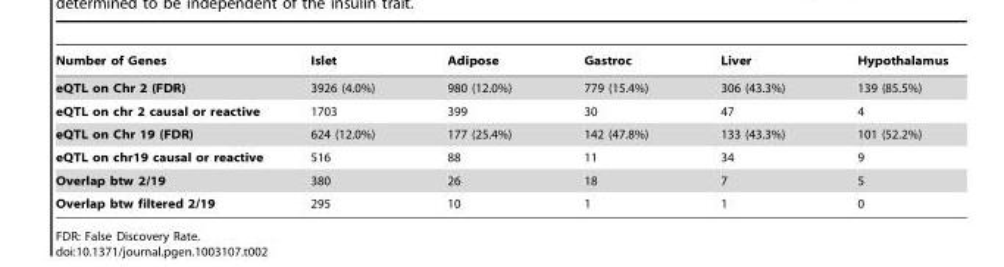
<table><thead><tr><td>Number of Genes</td><td>Islet</td><td>Adipose</td><td>Gastroc</td><td>Liver</td><td>Hypothalamus</td></tr></thead><tbody><tr><td>eQTL on Chr 2 (FDR)</td><td>3926 (4.0%)</td><td>980 (12.0%)</td><td>779 (15.4%)</td><td>306 (43.3%)</td><td>139 (85.5%)</td></tr><tr><td>eQTL on chr 2 causal or reactive</td><td>1703</td><td>399</td><td>30</td><td>47</td><td>4</td></tr><tr><td>eQTL on Chr 19 (FDR)</td><td>624 (12.0%)</td><td>177 (25.4%)</td><td>142 (47.8%)</td><td>133 (43.3%)</td><td>101 (52.2%)</td></tr><tr><td>eQTL on chr19 causal or reactive</td><td>516</td><td>88</td><td>11</td><td>34</td><td>9</td></tr><tr><td>Overlap btw 2/19</td><td>380</td><td>26</td><td>18</td><td>7</td><td>5</td></tr><tr><td>Overlap btw filtered 2/19</td><td>295</td><td>10</td><td>1</td><td>1</td><td>0</td></tr></tbody></table>